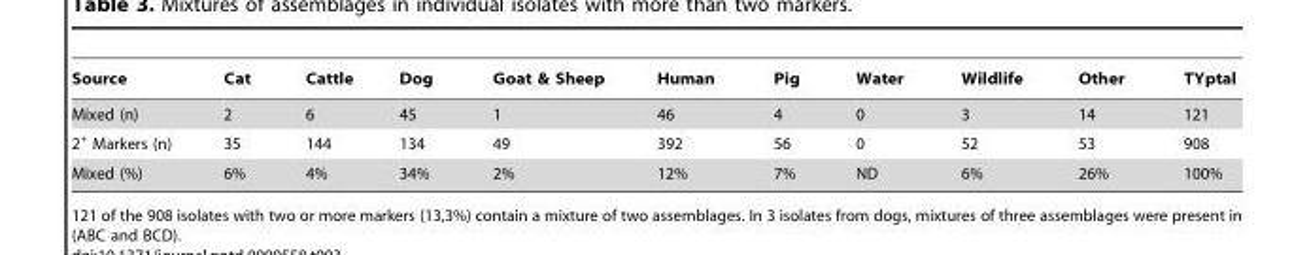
<table><thead><tr><td>Source</td><td>Cat</td><td>Cattle</td><td>Dog</td><td>Goat &amp; Sheep</td><td>Human</td><td>Pig</td><td>Water</td><td>Wildlife</td><td>Other</td><td>TYptal</td></tr></thead><tbody><tr><td>Mixed (n)</td><td>2</td><td>6</td><td>45</td><td>1</td><td>46</td><td>4</td><td>0</td><td>3</td><td>14</td><td>121</td></tr><tr><td>2<sup>+</sup> Markers (n)</td><td>35</td><td>144</td><td>134</td><td>49</td><td>392</td><td>56</td><td>0</td><td>52</td><td>53</td><td>908</td></tr><tr><td>Mixed (%)</td><td>6%</td><td>4%</td><td>34%</td><td>2%</td><td>12%</td><td>7%</td><td>ND</td><td>6%</td><td>26%</td><td>100%</td></tr></tbody></table>